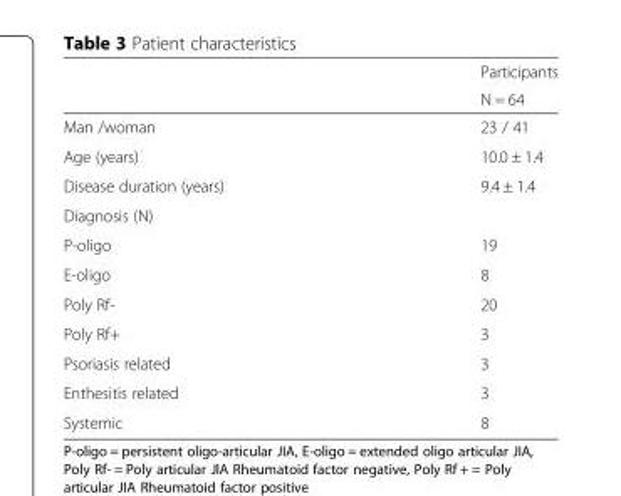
<table><thead><tr><td rowspan="2"></td><td rowspan="2">Participants N = 64</td></tr><tr></tr></thead><tbody><tr><td>Man /woman</td><td>23 / 41</td></tr><tr><td>Age (years)</td><td>10.0 ± 1.4</td></tr><tr><td>Disease duration (years)</td><td>9.4 ± 1.4</td></tr><tr><td colspan="2">Diagnosis (N)</td></tr><tr><td>P-oligo</td><td>19</td></tr><tr><td>E-oligo</td><td>8</td></tr><tr><td>Poly Rf-</td><td>20</td></tr><tr><td>Poly Rf+</td><td>3</td></tr><tr><td>Psoriasis related</td><td>3</td></tr><tr><td>Enthesitis related</td><td>3</td></tr><tr><td>Systemic</td><td>8</td></tr></tbody></table>